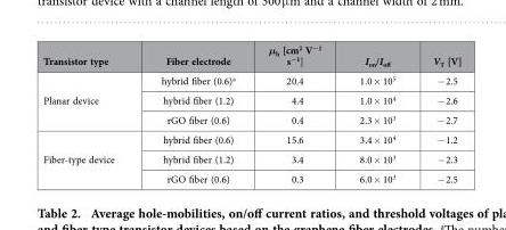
<table><thead><tr><td>Transistor type</td><td>Fiber electrode</td><td>μ<sub>h</sub> [cm<sup>2</sup> V<sup>−1</sup> s<sup>−1</sup>]</td><td>I<sub>on</sub>/I<sub>off</sub></td><td>V<sub>T</sub> [V]</td></tr></thead><tbody><tr><td rowspan="3">Planar device</td><td>hybrid fiber (0.6)<sup>a</sup></td><td>20.4</td><td>1.0 × 10<sup>5</sup></td><td>− 2.5</td></tr><tr><td>hybrid fiber (1.2)</td><td>4.4</td><td>1.0 × 10<sup>4</sup></td><td>− 2.6</td></tr><tr><td>rGO fiber (0.6)</td><td>0.4</td><td>2.3 × 10<sup>3</sup></td><td>− 2.7</td></tr><tr><td rowspan="3">Fiber-type device</td><td>hybrid fiber (0.6)</td><td>15.6</td><td>3.4 × 10<sup>4</sup></td><td>− 1.2</td></tr><tr><td>hybrid fiber (1.2)</td><td>3.4</td><td>8.0 × 10<sup>3</sup></td><td>− 2.3</td></tr><tr><td>rGO fiber (0.6)</td><td>0.3</td><td>6.0 × 10<sup>3</sup></td><td>− 2.5</td></tr></tbody></table>